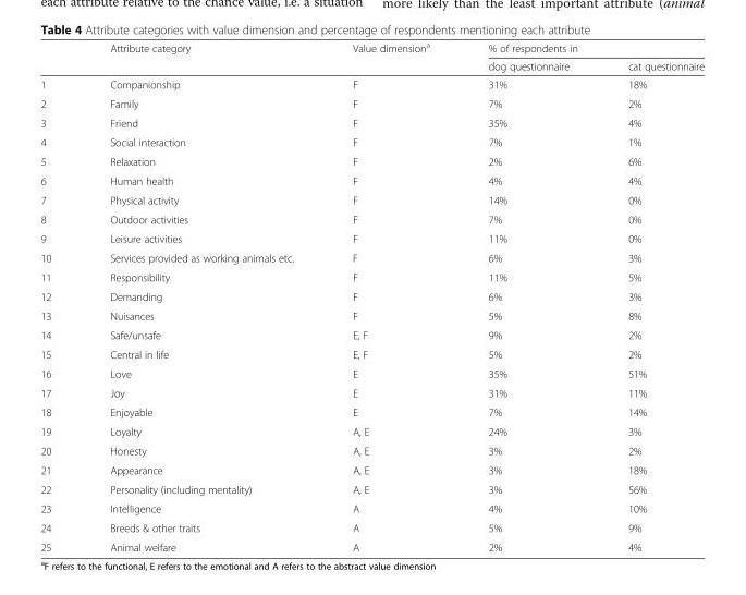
<table><thead><tr><td rowspan="2"></td><td rowspan="2">Attribute category</td><td rowspan="2">Value dimension<sup>a</sup></td><td colspan="2">% of respondents in</td></tr><tr><td>dog questionnaire</td><td>cat questionnaire</td></tr></thead><tbody><tr><td>1</td><td>Companionship</td><td>F</td><td>31%</td><td>18%</td></tr><tr><td>2</td><td>Family</td><td>F</td><td>7%</td><td>2%</td></tr><tr><td>3</td><td>Friend</td><td>F</td><td>35%</td><td>4%</td></tr><tr><td>4</td><td>Social interaction</td><td>F</td><td>7%</td><td>1%</td></tr><tr><td>5</td><td>Relaxation</td><td>F</td><td>2%</td><td>6%</td></tr><tr><td>6</td><td>Human health</td><td>F</td><td>4%</td><td>4%</td></tr><tr><td>7</td><td>Physical activity</td><td>F</td><td>14%</td><td>0%</td></tr><tr><td>8</td><td>Outdoor activities</td><td>F</td><td>7%</td><td>0%</td></tr><tr><td>9</td><td>Leisure activities</td><td>F</td><td>11%</td><td>0%</td></tr><tr><td>10</td><td>Services provided as working animals etc.</td><td>F</td><td>6%</td><td>3%</td></tr><tr><td>11</td><td>Responsibility</td><td>F</td><td>11%</td><td>5%</td></tr><tr><td>12</td><td>Demanding</td><td>F</td><td>6%</td><td>3%</td></tr><tr><td>13</td><td>Nuisances</td><td>F</td><td>5%</td><td>8%</td></tr><tr><td>14</td><td>Safe/unsafe</td><td>E, F</td><td>9%</td><td>2%</td></tr><tr><td>15</td><td>Central in life</td><td>E, F</td><td>5%</td><td>2%</td></tr><tr><td>16</td><td>Love</td><td>E</td><td>35%</td><td>51%</td></tr><tr><td>17</td><td>Joy</td><td>E</td><td>31%</td><td>11%</td></tr><tr><td>18</td><td>Enjoyable</td><td>E</td><td>7%</td><td>14%</td></tr><tr><td>19</td><td>Loyalty</td><td>A, E</td><td>24%</td><td>3%</td></tr><tr><td>20</td><td>Honesty</td><td>A, E</td><td>3%</td><td>2%</td></tr><tr><td>21</td><td>Appearance</td><td>A, E</td><td>3%</td><td>18%</td></tr><tr><td>22</td><td>Personality (including mentality)</td><td>A, E</td><td>3%</td><td>56%</td></tr><tr><td>23</td><td>Intelligence</td><td>A</td><td>4%</td><td>10%</td></tr><tr><td>24</td><td>Breeds &amp; other traits</td><td>A</td><td>5%</td><td>9%</td></tr><tr><td>25</td><td>Animal welfare</td><td>A</td><td>2%</td><td>4%</td></tr></tbody></table>